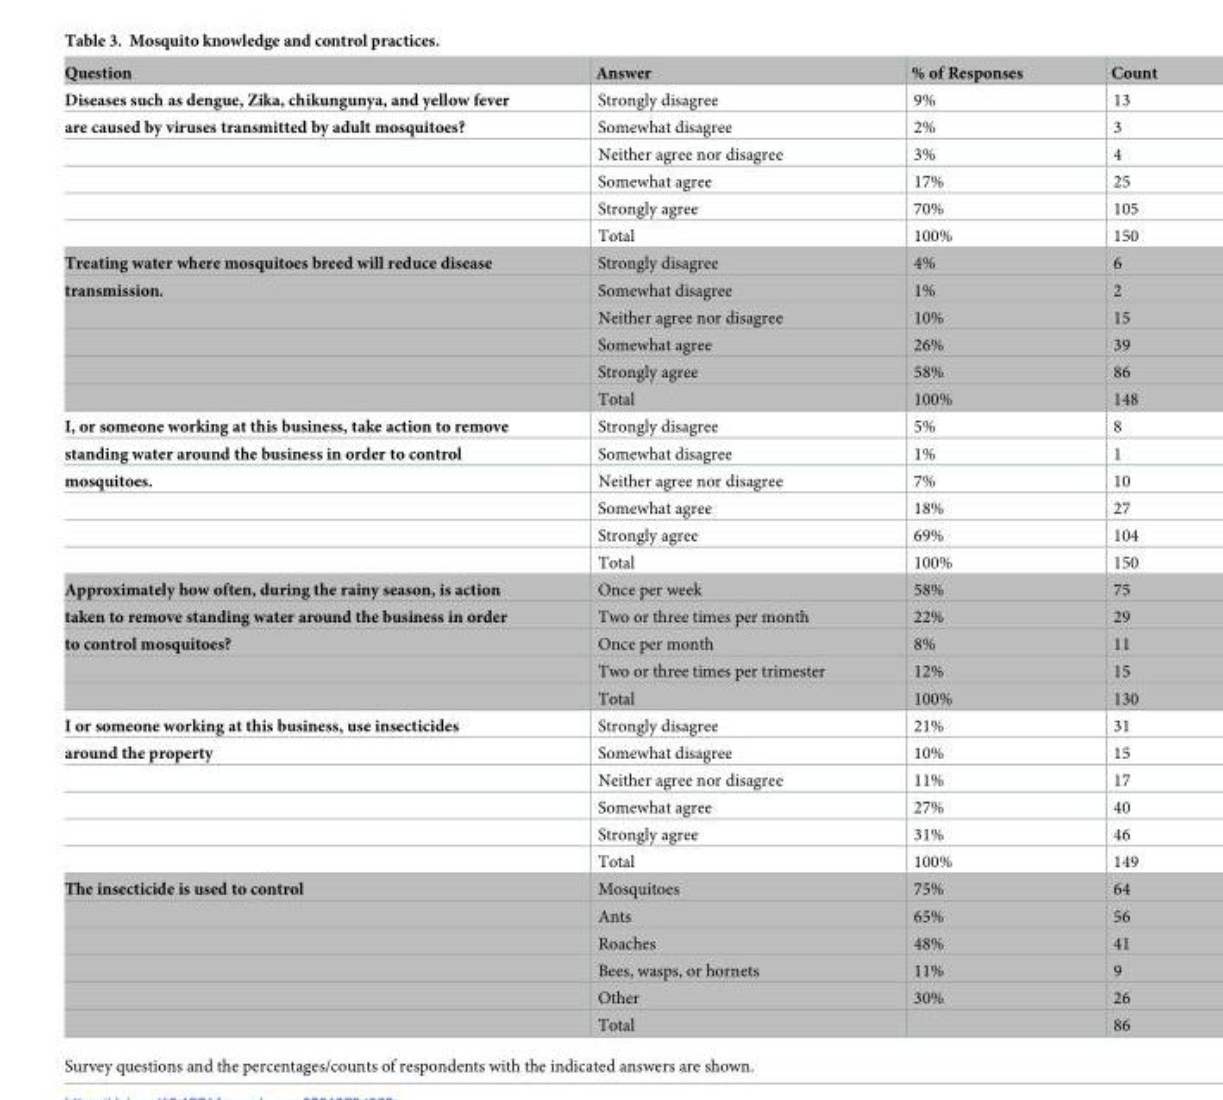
<table><thead><tr><td>Question</td><td>Answer</td><td>% of Responses</td><td>Count</td></tr></thead><tbody><tr><td>Diseases such as dengue, Zika, chikungunya, and yellow fever</td><td>Strongly disagree</td><td>9%</td><td>13</td></tr><tr><td rowspan="5">are caused by viruses transmitted by adult mosquitoes?</td><td>Somewhat disagree</td><td>2%</td><td>3</td></tr><tr><td>Neither agree nor disagree</td><td>3%</td><td>4</td></tr><tr><td>Somewhat agree</td><td>17%</td><td>25</td></tr><tr><td>Strongly agree</td><td>70%</td><td>105</td></tr><tr><td>Total</td><td>100%</td><td>150</td></tr><tr><td>Treating water where mosquitoes breed will reduce disease</td><td>Strongly disagree</td><td>4%</td><td>6</td></tr><tr><td rowspan="5">transmission.</td><td>Somewhat disagree</td><td>1%</td><td>2</td></tr><tr><td>Neither agree nor disagree</td><td>10%</td><td>15</td></tr><tr><td>Somewhat agree</td><td>26%</td><td>39</td></tr><tr><td>Strongly agree</td><td>58%</td><td>86</td></tr><tr><td>Total</td><td>100%</td><td>148</td></tr><tr><td>I, or someone working at this business, take action to remove</td><td>Strongly disagree</td><td>5%</td><td>8</td></tr><tr><td>standing water around the business in order to control</td><td>Somewhat disagree</td><td>1%</td><td>1</td></tr><tr><td rowspan="4">mosquitoes.</td><td>Neither agree nor disagree</td><td>7%</td><td>10</td></tr><tr><td>Somewhat agree</td><td>18%</td><td>27</td></tr><tr><td>Strongly agree</td><td>69%</td><td>104</td></tr><tr><td>Total</td><td>100%</td><td>150</td></tr><tr><td>Approximately how often, during the rainy season, is action</td><td>Once per week</td><td>58%</td><td>75</td></tr><tr><td>taken to remove standing water around the business in order</td><td>Two or three times per month</td><td>22%</td><td>29</td></tr><tr><td rowspan="3">to control mosquitoes?</td><td>Once per month</td><td>8%</td><td>11</td></tr><tr><td>Two or three times per trimester</td><td>12%</td><td>15</td></tr><tr><td>Total</td><td>100%</td><td>130</td></tr><tr><td>I or someone working at this business, use insecticides</td><td>Strongly disagree</td><td>21%</td><td>31</td></tr><tr><td rowspan="5">around the property</td><td>Somewhat disagree</td><td>10%</td><td>15</td></tr><tr><td>Neither agree nor disagree</td><td>11%</td><td>17</td></tr><tr><td>Somewhat agree</td><td>27%</td><td>40</td></tr><tr><td>Strongly agree</td><td>31%</td><td>46</td></tr><tr><td>Total</td><td>100%</td><td>149</td></tr><tr><td rowspan="6">The insecticide is used to control</td><td>Mosquitoes</td><td>75%</td><td>64</td></tr><tr><td>Ants</td><td>65%</td><td>56</td></tr><tr><td>Roaches</td><td>48%</td><td>41</td></tr><tr><td>Bees, wasps, or hornets</td><td>11%</td><td>9</td></tr><tr><td>Other</td><td>30%</td><td>26</td></tr><tr><td>Total</td><td></td><td>86</td></tr></tbody></table>